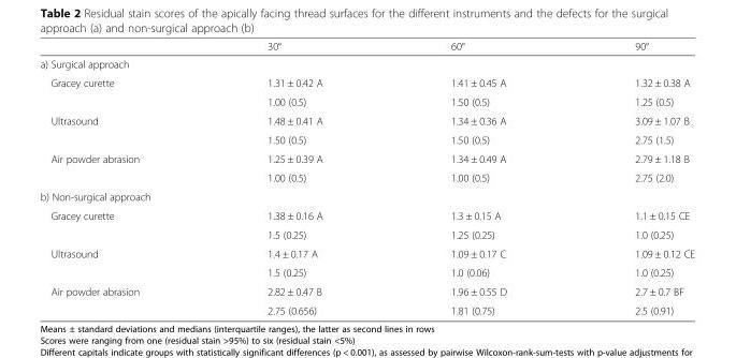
<table><thead><tr><td></td><td>30°</td><td>60°</td><td>90°</td></tr></thead><tbody><tr><td colspan="4">a) Surgical approach</td></tr><tr><td rowspan="2">Gracey curette</td><td>1.31 ± 0.42 A</td><td>1.41 ± 0.45 A</td><td>1.32 ± 0.38 A</td></tr><tr><td>1.00 (0.5)</td><td>1.50 (0.5)</td><td>1.25 (0.5)</td></tr><tr><td rowspan="2">Ultrasound</td><td>1.48 ± 0.41 A</td><td>1.34 ± 0.36 A</td><td>3.09 ± 1.07 B</td></tr><tr><td>1.50 (0.5)</td><td>1.50 (0.5)</td><td>2.75 (1.5)</td></tr><tr><td rowspan="2">Air powder abrasion</td><td>1.25 ± 0.39 A</td><td>1.34 ± 0.49 A</td><td>2.79 ± 1.18 B</td></tr><tr><td>1.00 (0.5)</td><td>1.00 (0.5)</td><td>2.75 (2.0)</td></tr><tr><td colspan="4">b) Non-surgical approach</td></tr><tr><td rowspan="2">Gracey curette</td><td>1.38 ± 0.16 A</td><td>1.3 ± 0.15 A</td><td>1.1 ± 0.15 CE</td></tr><tr><td>1.5 (0.25)</td><td>1.25 (0.25)</td><td>1.0 (0.25)</td></tr><tr><td rowspan="2">Ultrasound</td><td>1.4 ± 0.17 A</td><td>1.09 ± 0.17 C</td><td>1.09 ± 0.12 CE</td></tr><tr><td>1.5 (0.25)</td><td>1.0 (0.06)</td><td>1.0 (0.25)</td></tr><tr><td rowspan="2">Air powder abrasion</td><td>2.82 ± 0.47 B</td><td>1.96 ± 0.55 D</td><td>2.7 ± 0.7 BF</td></tr><tr><td>2.75 (0.656)</td><td>1.81 (0.75)</td><td>2.5 (0.91)</td></tr></tbody></table>